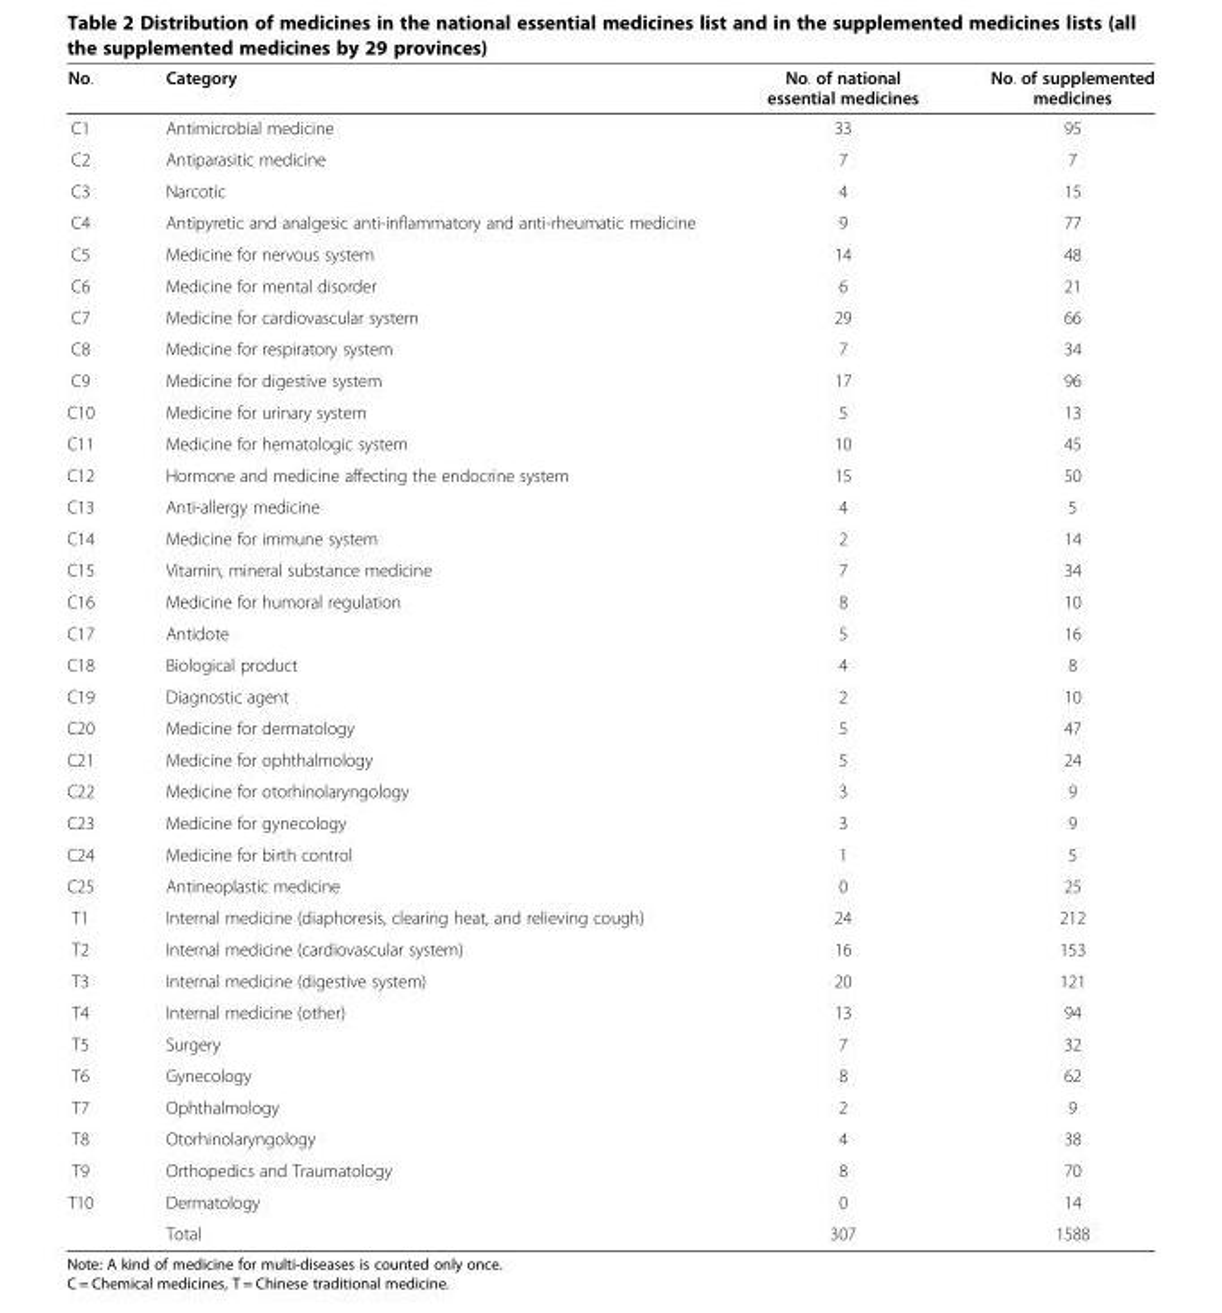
<table><thead><tr><td>No.</td><td>Category</td><td>No. of national essential medicines</td><td>No. of supplemented medicines</td></tr></thead><tbody><tr><td>C1</td><td>Antimicrobial medicine</td><td>33</td><td>95</td></tr><tr><td>C2</td><td>Antiparasitic medicine</td><td>7</td><td>7</td></tr><tr><td>C3</td><td>Narcotic</td><td>4</td><td>15</td></tr><tr><td>C4</td><td>Antipyretic and analgesic anti-inflammatory and anti-rheumatic medicine</td><td>9</td><td>77</td></tr><tr><td>C5</td><td>Medicine for nervous system</td><td>14</td><td>48</td></tr><tr><td>C6</td><td>Medicine for mental disorder</td><td>6</td><td>21</td></tr><tr><td>C7</td><td>Medicine for cardiovascular system</td><td>29</td><td>66</td></tr><tr><td>C8</td><td>Medicine for respiratory system</td><td>7</td><td>34</td></tr><tr><td>C9</td><td>Medicine for digestive system</td><td>17</td><td>96</td></tr><tr><td>C10</td><td>Medicine for urinary system</td><td>5</td><td>13</td></tr><tr><td>C11</td><td>Medicine for hematologic system</td><td>10</td><td>45</td></tr><tr><td>C12</td><td>Hormone and medicine affecting the endocrine system</td><td>15</td><td>50</td></tr><tr><td>C13</td><td>Anti-allergy medicine</td><td>4</td><td>5</td></tr><tr><td>C14</td><td>Medicine for immune system</td><td>2</td><td>14</td></tr><tr><td>C15</td><td>Vitamin, mineral substance medicine</td><td>7</td><td>34</td></tr><tr><td>C16</td><td>Medicine for humoral regulation</td><td>8</td><td>10</td></tr><tr><td>C17</td><td>Antidote</td><td>5</td><td>16</td></tr><tr><td>C18</td><td>Biological product</td><td>4</td><td>8</td></tr><tr><td>C19</td><td>Diagnostic agent</td><td>2</td><td>10</td></tr><tr><td>C20</td><td>Medicine for dermatology</td><td>5</td><td>47</td></tr><tr><td>C21</td><td>Medicine for ophthalmology</td><td>5</td><td>24</td></tr><tr><td>C22</td><td>Medicine for otorhinolaryngology</td><td>3</td><td>9</td></tr><tr><td>C23</td><td>Medicine for gynecology</td><td>3</td><td>9</td></tr><tr><td>C24</td><td>Medicine for birth control</td><td>1</td><td>5</td></tr><tr><td>C25</td><td>Antineoplastic medicine</td><td>0</td><td>25</td></tr><tr><td>T1</td><td>Internal medicine (diaphoresis, clearing heat, and relieving cough)</td><td>24</td><td>212</td></tr><tr><td>T2</td><td>Internal medicine (cardiovascular system)</td><td>16</td><td>153</td></tr><tr><td>T3</td><td>Internal medicine (digestive system)</td><td>20</td><td>121</td></tr><tr><td>T4</td><td>Internal medicine (other)</td><td>13</td><td>94</td></tr><tr><td>T5</td><td>Surgery</td><td>7</td><td>32</td></tr><tr><td>T6</td><td>Gynecology</td><td>8</td><td>62</td></tr><tr><td>T7</td><td>Ophthalmology</td><td>2</td><td>9</td></tr><tr><td>T8</td><td>Otorhinolaryngology</td><td>4</td><td>38</td></tr><tr><td>T9</td><td>Orthopedics and Traumatology</td><td>8</td><td>70</td></tr><tr><td rowspan="2">T10</td><td>Dermatology</td><td>0</td><td>14</td></tr><tr><td>Total</td><td>307</td><td>1588</td></tr></tbody></table>